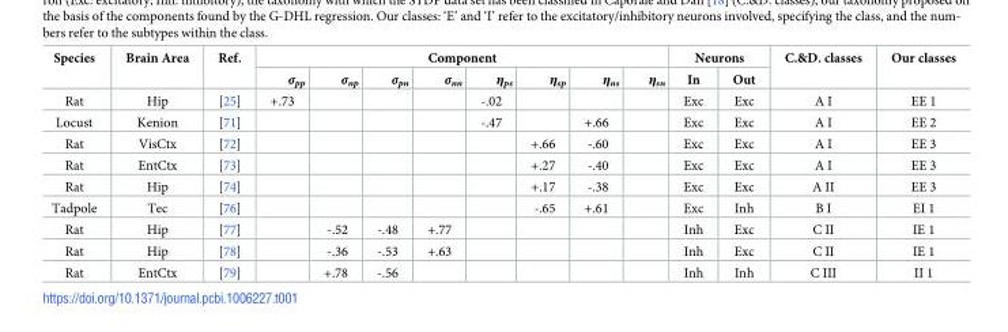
<table><thead><tr><td rowspan="2">Species</td><td rowspan="2">Brain Area</td><td rowspan="2">Ref.</td><td colspan="8">Component</td><td colspan="2">Neurons</td><td rowspan="2">C.&amp;D. classes</td><td rowspan="2">Our classes</td></tr><tr><td>σ<sub>pp</sub></td><td>σ<sub>np</sub></td><td>σ<sub>pn</sub></td><td>σ<sub>nn</sub></td><td>η<sub>ps</sub></td><td>η<sub>sp</sub></td><td>η<sub>ns</sub></td><td>η<sub>sn</sub></td><td>In</td><td>Out</td></tr></thead><tbody><tr><td>Rat</td><td>Hip</td><td>[25]</td><td>+.73</td><td></td><td></td><td></td><td>-.02</td><td></td><td></td><td></td><td>Exc</td><td>Exc</td><td>A I</td><td>EE 1</td></tr><tr><td>Locust</td><td>Kenion</td><td>[71]</td><td></td><td></td><td></td><td></td><td>-.47</td><td></td><td>+.66</td><td></td><td>Exc</td><td>Exc</td><td>A I</td><td>EE 2</td></tr><tr><td>Rat</td><td>VisCtx</td><td>[72]</td><td></td><td></td><td></td><td></td><td></td><td>+.66</td><td>-.60</td><td></td><td>Exc</td><td>Exc</td><td>A I</td><td>EE 3</td></tr><tr><td>Rat</td><td>EntCtx</td><td>[73]</td><td></td><td></td><td></td><td></td><td></td><td>+.27</td><td>-.40</td><td></td><td>Exc</td><td>Exc</td><td>A I</td><td>EE 3</td></tr><tr><td>Rat</td><td>Hip</td><td>[74]</td><td></td><td></td><td></td><td></td><td></td><td>+.17</td><td>-.38</td><td></td><td>Exc</td><td>Exc</td><td>A II</td><td>EE 3</td></tr><tr><td>Tadpole</td><td>Tec</td><td>[76]</td><td></td><td></td><td></td><td></td><td></td><td>-.65</td><td>+.61</td><td></td><td>Exc</td><td>Inh</td><td>B I</td><td>EI 1</td></tr><tr><td>Rat</td><td>Hip</td><td>[77]</td><td></td><td>-.52</td><td>-.48</td><td>+.77</td><td></td><td></td><td></td><td></td><td>Inh</td><td>Exc</td><td>C II</td><td>IE 1</td></tr><tr><td>Rat</td><td>Hip</td><td>[78]</td><td></td><td>-.36</td><td>-.53</td><td>+.63</td><td></td><td></td><td></td><td></td><td>Inh</td><td>Exc</td><td>C II</td><td>IE 1</td></tr><tr><td>Rat</td><td>EntCtx</td><td>[79]</td><td></td><td>+.78</td><td>-.56</td><td></td><td></td><td></td><td></td><td></td><td>Inh</td><td>Inh</td><td>C III</td><td>II 1</td></tr></tbody></table>